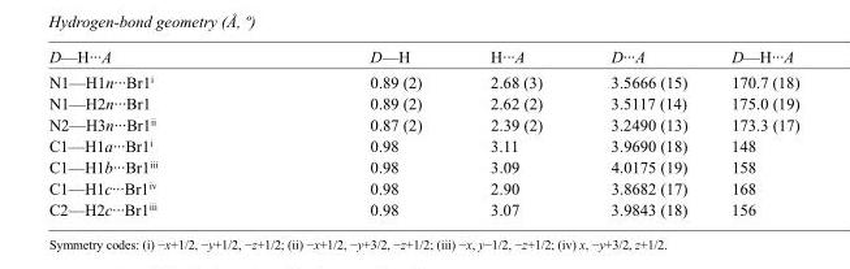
<table><tbody><tr><td>D—H···A</td><td>D—H</td><td>H···A</td><td>D···A</td><td>D—H···A</td></tr><tr><td>N1—H1n···Br1<sup>i</sup></td><td>0.89 (2)</td><td>2.68 (3)</td><td>3.5666 (15)</td><td>170.7 (18)</td></tr><tr><td>N1—H2n···Br1</td><td>0.89 (2)</td><td>2.62 (2)</td><td>3.5117 (14)</td><td>175.0 (19)</td></tr><tr><td>N2—H3n···Br1<sup>ii</sup></td><td>0.87 (2)</td><td>2.39 (2)</td><td>3.2490 (13)</td><td>173.3 (17)</td></tr><tr><td>C1—H1a···Br1<sup>i</sup></td><td>0.98</td><td>3.11</td><td>3.9690 (18)</td><td>148</td></tr><tr><td>C1—H1b···Br1<sup>iii</sup></td><td>0.98</td><td>3.09</td><td>4.0175 (19)</td><td>158</td></tr><tr><td>C1—H1c···Br1<sup>iv</sup></td><td>0.98</td><td>2.90</td><td>3.8682 (17)</td><td>168</td></tr><tr><td>C2—H2c···Br1<sup>iii</sup></td><td>0.98</td><td>3.07</td><td>3.9843 (18)</td><td>156</td></tr></tbody></table>